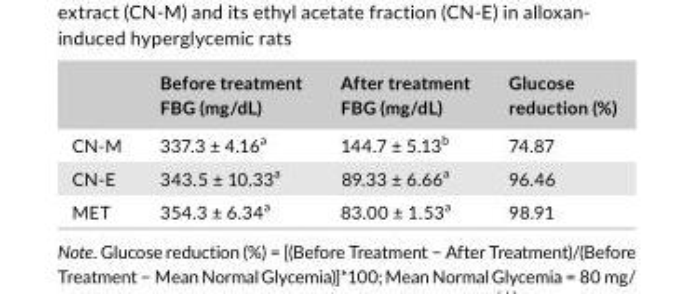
<table><thead><tr><td></td><td>Before treatment FBG (mg/dL)</td><td>After treatment FBG (mg/dL)</td><td>Glucose reduction (%)</td></tr></thead><tbody><tr><td>CN- M</td><td>337.3 ± 4.16<sup>a</sup></td><td>144.7 ± 5.13<sup>b</sup></td><td>74.87</td></tr><tr><td>CN- E</td><td>343.5 ± 10.33<sup>a</sup></td><td>89.33 ± 6.66<sup>a</sup></td><td>96.46</td></tr><tr><td>MET</td><td>354.3 ± 6.34<sup>a</sup></td><td>83.00 ± 1.53<sup>a</sup></td><td>98.91</td></tr></tbody></table>